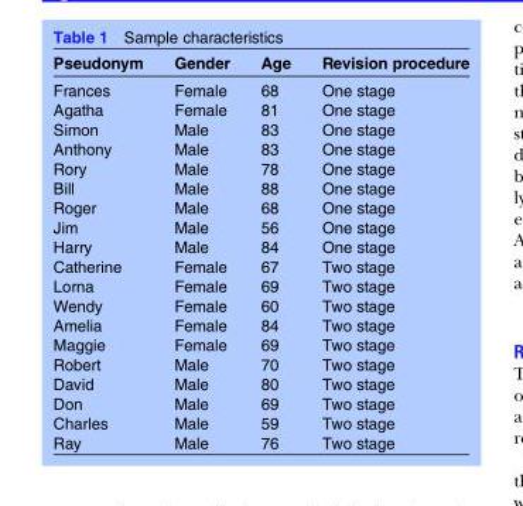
<table><thead><tr><td>Pseudonym</td><td>Gender</td><td>Age</td><td>Revision procedure</td></tr></thead><tbody><tr><td>Frances</td><td>Female</td><td>68</td><td>One stage</td></tr><tr><td>Agatha</td><td>Female</td><td>81</td><td>One stage</td></tr><tr><td>Simon</td><td>Male</td><td>83</td><td>One stage</td></tr><tr><td>Anthony</td><td>Male</td><td>83</td><td>One stage</td></tr><tr><td>Rory</td><td>Male</td><td>78</td><td>One stage</td></tr><tr><td>Bill</td><td>Male</td><td>88</td><td>One stage</td></tr><tr><td>Roger</td><td>Male</td><td>68</td><td>One stage</td></tr><tr><td>Jim</td><td>Male</td><td>56</td><td>One stage</td></tr><tr><td>Harry</td><td>Male</td><td>84</td><td>One stage</td></tr><tr><td>Catherine</td><td>Female</td><td>67</td><td>Two stage</td></tr><tr><td>Lorna</td><td>Female</td><td>69</td><td>Two stage</td></tr><tr><td>Wendy</td><td>Female</td><td>60</td><td>Two stage</td></tr><tr><td>Amelia</td><td>Female</td><td>84</td><td>Two stage</td></tr><tr><td>Maggie</td><td>Female</td><td>69</td><td>Two stage</td></tr><tr><td>Robert</td><td>Male</td><td>70</td><td>Two stage</td></tr><tr><td>David</td><td>Male</td><td>80</td><td>Two stage</td></tr><tr><td>Don</td><td>Male</td><td>69</td><td>Two stage</td></tr><tr><td>Charles</td><td>Male</td><td>59</td><td>Two stage</td></tr><tr><td>Ray</td><td>Male</td><td>76</td><td>Two stage</td></tr></tbody></table>